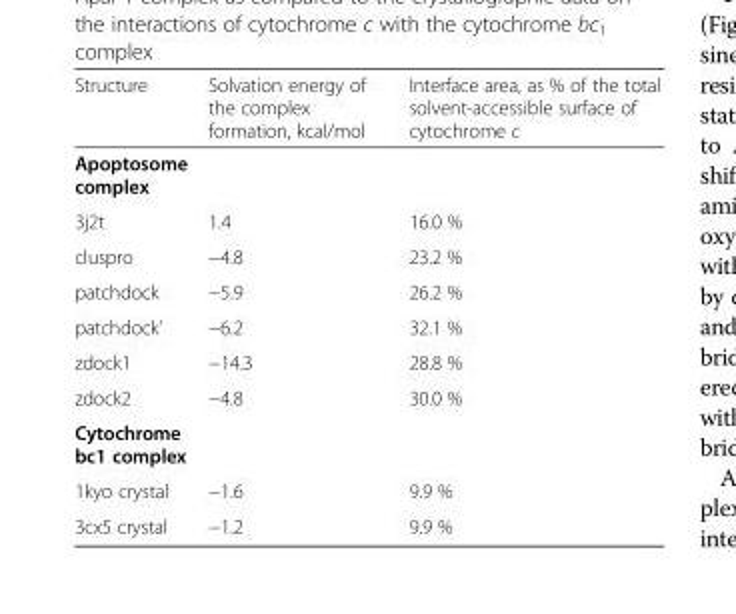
<table><thead><tr><td>Structure</td><td>Solvation energy of the complex formation, kcal/mol</td><td>Interface area, as % of the total solvent-accessible surface of cytochrome c</td></tr></thead><tbody><tr><td colspan="3">Apoptosome complex</td></tr><tr><td>3j2t</td><td>1.4</td><td>16.0 %</td></tr><tr><td>cluspro</td><td>−4.8</td><td>23.2 %</td></tr><tr><td>patchdock</td><td>−5.9</td><td>26.2 %</td></tr><tr><td>patchdock’</td><td>−6.2</td><td>32.1 %</td></tr><tr><td>zdock1</td><td>−14.3</td><td>28.8 %</td></tr><tr><td>zdock2</td><td>−4.8</td><td>30.0 %</td></tr><tr><td colspan="3">Cytochrome bc1 complex</td></tr><tr><td>1kyo crystal</td><td>−1.6</td><td>9.9 %</td></tr><tr><td>3cx5 crystal</td><td>−1.2</td><td>9.9 %</td></tr></tbody></table>